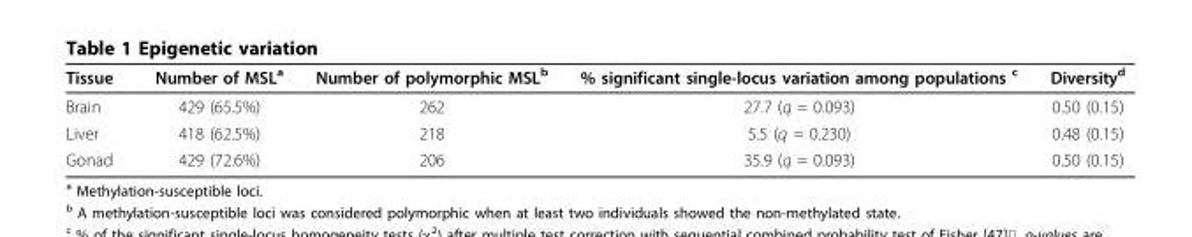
<table><thead><tr><td>Tissue</td><td>Number of MSL<sup>a</sup></td><td>Number of polymorphic MSL<sup>b</sup></td><td>% significant single-locus variation among populations <sup>c</sup></td><td>Diversity<sup>d</sup></td></tr></thead><tbody><tr><td>Brain</td><td>429 (65.5%)</td><td>262</td><td>27.7 (q = 0.093)</td><td>0.50 (0.15)</td></tr><tr><td>Liver</td><td>418 (62.5%)</td><td>218</td><td>5.5 (q = 0.230)</td><td>0.48 (0.15)</td></tr><tr><td>Gonad</td><td>429 (72.6%)</td><td>206</td><td>35.9 (q = 0.093)</td><td>0.50 (0.15)</td></tr></tbody></table>